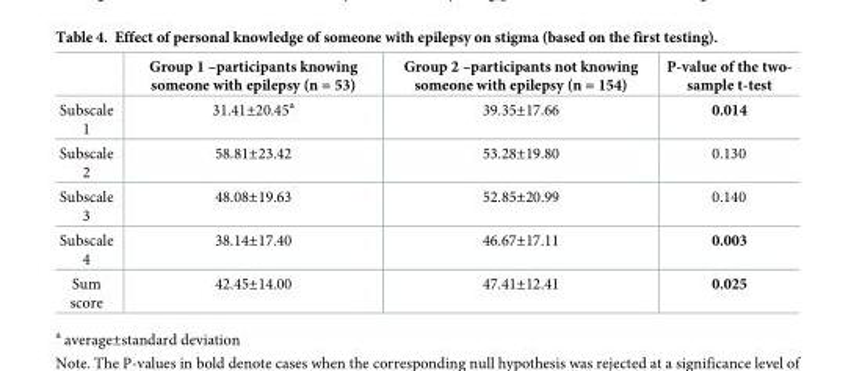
<table><thead><tr><td></td><td>Group 1 –participants knowing someone with epilepsy (n = 53)</td><td>Group 2 –participants not knowing someone with epilepsy (n = 154)</td><td>P-value of the two- sample t-test</td></tr></thead><tbody><tr><td>Subscale 1</td><td>31.41±20.45<sup>a</sup></td><td>39.35±17.66</td><td>0.014</td></tr><tr><td>Subscale 2</td><td>58.81±23.42</td><td>53.28±19.80</td><td>0.130</td></tr><tr><td>Subscale 3</td><td>48.08±19.63</td><td>52.85±20.99</td><td>0.140</td></tr><tr><td>Subscale 4</td><td>38.14±17.40</td><td>46.67±17.11</td><td>0.003</td></tr><tr><td>Sum score</td><td>42.45±14.00</td><td>47.41±12.41</td><td>0.025</td></tr></tbody></table>